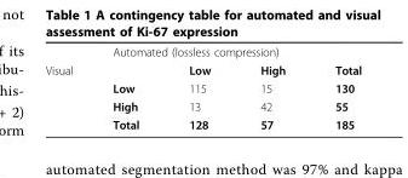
<table><thead><tr><td rowspan="2">Visual</td><td colspan="4">Automated (lossless compression)</td></tr><tr><td></td><td>Low</td><td>High</td><td>Total</td></tr></thead><tbody><tr><td></td><td>Low</td><td>115</td><td>15</td><td>130</td></tr><tr><td></td><td>High</td><td>13</td><td>42</td><td>55</td></tr><tr><td></td><td>Total</td><td>128</td><td>57</td><td>185</td></tr></tbody></table>